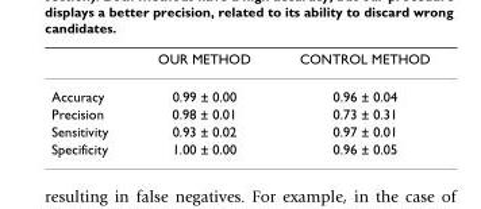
<table><thead><tr><td></td><td>OUR METHOD</td><td>CONTROL METHOD</td></tr></thead><tbody><tr><td>Accuracy</td><td>0.99 ± 0.00</td><td>0.96 ± 0.04</td></tr><tr><td>Precision</td><td>0.98 ± 0.01</td><td>0.73 ± 0.31</td></tr><tr><td>Sensitivity</td><td>0.93 ± 0.02</td><td>0.97 ± 0.01</td></tr><tr><td>Specificity</td><td>1.00 ± 0.00</td><td>0.96 ± 0.05</td></tr></tbody></table>